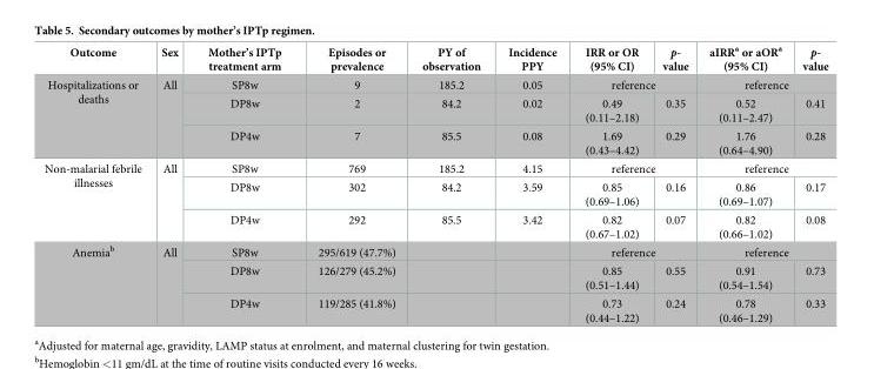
<table><thead><tr><td>Outcome</td><td>Sex</td><td>Mother’s IPTp treatment arm</td><td>Episodes or prevalence</td><td>PY of observation</td><td>Incidence PPY</td><td>IRR or OR (95% CI)</td><td>p- value</td><td>aIRR<sup>a</sup> or aOR<sup>a</sup> (95% CI)</td><td>p- value</td></tr></thead><tbody><tr><td rowspan="3">Hospitalizations or deaths</td><td rowspan="3">All</td><td>SP8w</td><td>9</td><td>185.2</td><td>0.05</td><td colspan="2">reference</td><td colspan="2">reference</td></tr><tr><td>DP8w</td><td>2</td><td>84.2</td><td>0.02</td><td>0.49 (0.11–2.18)</td><td>0.35</td><td>0.52 (0.11–2.47)</td><td>0.41</td></tr><tr><td>DP4w</td><td>7</td><td>85.5</td><td>0.08</td><td>1.69 (0.43–4.42)</td><td>0.29</td><td>1.76 (0.64–4.90)</td><td>0.28</td></tr><tr><td rowspan="3">Non-malarial febrile illnesses</td><td rowspan="3">All</td><td>SP8w</td><td>769</td><td>185.2</td><td>4.15</td><td colspan="2">reference</td><td colspan="2">reference</td></tr><tr><td>DP8w</td><td>302</td><td>84.2</td><td>3.59</td><td>0.85 (0.69–1.06)</td><td>0.16</td><td>0.86 (0.69–1.07)</td><td>0.17</td></tr><tr><td>DP4w</td><td>292</td><td>85.5</td><td>3.42</td><td>0.82 (0.67–1.02)</td><td>0.07</td><td>0.82 (0.66–1.02)</td><td>0.08</td></tr><tr><td rowspan="3">Anemia<sup>b</sup></td><td rowspan="3">All</td><td>SP8w</td><td>295/619 (47.7%)</td><td></td><td></td><td colspan="2">reference</td><td colspan="2">reference</td></tr><tr><td>DP8w</td><td>126/279 (45.2%)</td><td></td><td></td><td>0.85 (0.51–1.44)</td><td>0.55</td><td>0.91 (0.54–1.54)</td><td>0.73</td></tr><tr><td>DP4w</td><td>119/285 (41.8%)</td><td></td><td></td><td>0.73 (0.44–1.22)</td><td>0.24</td><td>0.78 (0.46–1.29)</td><td>0.33</td></tr></tbody></table>